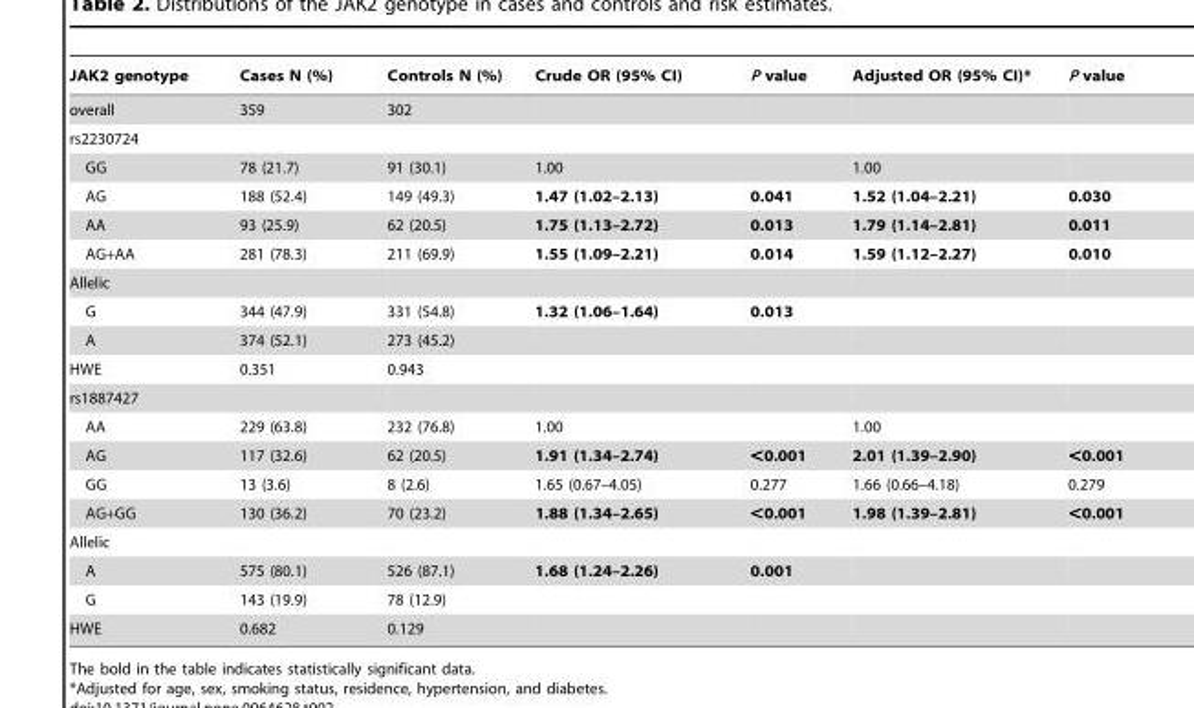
<table><thead><tr><td>JAK2 genotype</td><td>Cases N (%)</td><td>Controls N (%)</td><td>Crude OR (95% CI)</td><td>P value</td><td>Adjusted OR (95% CI)*</td><td>P value</td></tr></thead><tbody><tr><td>overall</td><td>359</td><td>302</td><td></td><td></td><td></td><td></td></tr><tr><td colspan="7">rs2230724</td></tr><tr><td>GG</td><td>78 (21.7)</td><td>91 (30.1)</td><td>1.00</td><td></td><td>1.00</td><td></td></tr><tr><td>AG</td><td>188 (52.4)</td><td>149 (49.3)</td><td>1.47 (1.02–2.13)</td><td>0.041</td><td>1.52 (1.04–2.21)</td><td>0.030</td></tr><tr><td>AA</td><td>93 (25.9)</td><td>62 (20.5)</td><td>1.75 (1.13–2.72)</td><td>0.013</td><td>1.79 (1.14–2.81)</td><td>0.011</td></tr><tr><td>AG+AA</td><td>281 (78.3)</td><td>211 (69.9)</td><td>1.55 (1.09–2.21)</td><td>0.014</td><td>1.59 (1.12–2.27)</td><td>0.010</td></tr><tr><td colspan="7">Allelic</td></tr><tr><td>G</td><td>344 (47.9)</td><td>331 (54.8)</td><td>1.32 (1.06–1.64)</td><td>0.013</td><td></td><td></td></tr><tr><td>A</td><td>374 (52.1)</td><td>273 (45.2)</td><td></td><td></td><td></td><td></td></tr><tr><td>HWE</td><td>0.351</td><td>0.943</td><td></td><td></td><td></td><td></td></tr><tr><td colspan="7">rs1887427</td></tr><tr><td>AA</td><td>229 (63.8)</td><td>232 (76.8)</td><td>1.00</td><td></td><td>1.00</td><td></td></tr><tr><td>AG</td><td>117 (32.6)</td><td>62 (20.5)</td><td>1.91 (1.34–2.74)</td><td>&lt;0.001</td><td>2.01 (1.39–2.90)</td><td>&lt;0.001</td></tr><tr><td>GG</td><td>13 (3.6)</td><td>8 (2.6)</td><td>1.65 (0.67–4.05)</td><td>0.277</td><td>1.66 (0.66–4.18)</td><td>0.279</td></tr><tr><td>AG+GG</td><td>130 (36.2)</td><td>70 (23.2)</td><td>1.88 (1.34–2.65)</td><td>&lt;0.001</td><td>1.98 (1.39–2.81)</td><td>&lt;0.001</td></tr><tr><td colspan="7">Allelic</td></tr><tr><td>A</td><td>575 (80.1)</td><td>526 (87.1)</td><td>1.68 (1.24–2.26)</td><td>0.001</td><td></td><td></td></tr><tr><td>G</td><td>143 (19.9)</td><td>78 (12.9)</td><td></td><td></td><td></td><td></td></tr><tr><td>HWE</td><td>0.682</td><td>0.129</td><td></td><td></td><td></td><td></td></tr></tbody></table>